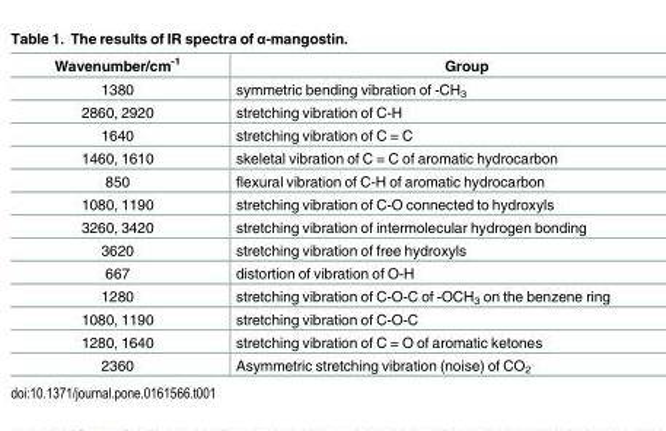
<table><thead><tr><td>Wavenumber/cm<sup>-1</sup></td><td>Group</td></tr></thead><tbody><tr><td>1380</td><td>symmetric bending vibration of -CH<sub>3</sub></td></tr><tr><td>2860, 2920</td><td>stretching vibration of C-H</td></tr><tr><td>1640</td><td>stretching vibration of C = C</td></tr><tr><td>1460, 1610</td><td>skeletal vibration of C = C of aromatic hydrocarbon</td></tr><tr><td>850</td><td>flexural vibration of C-H of aromatic hydrocarbon</td></tr><tr><td>1080, 1190</td><td>stretching vibration of C-O connected to hydroxyls</td></tr><tr><td>3260, 3420</td><td>stretching vibration of intermolecular hydrogen bonding</td></tr><tr><td>3620</td><td>stretching vibration of free hydroxyls</td></tr><tr><td>667</td><td>distortion of vibration of O-H</td></tr><tr><td>1280</td><td>stretching vibration of C-O-C of -OCH<sub>3</sub> on the benzene ring</td></tr><tr><td>1080, 1190</td><td>stretching vibration of C-O-C</td></tr><tr><td>1280, 1640</td><td>stretching vibration of C = O of aromatic ketones</td></tr><tr><td>2360</td><td>Asymmetric stretching vibration (noise) of CO<sub>2</sub></td></tr></tbody></table>